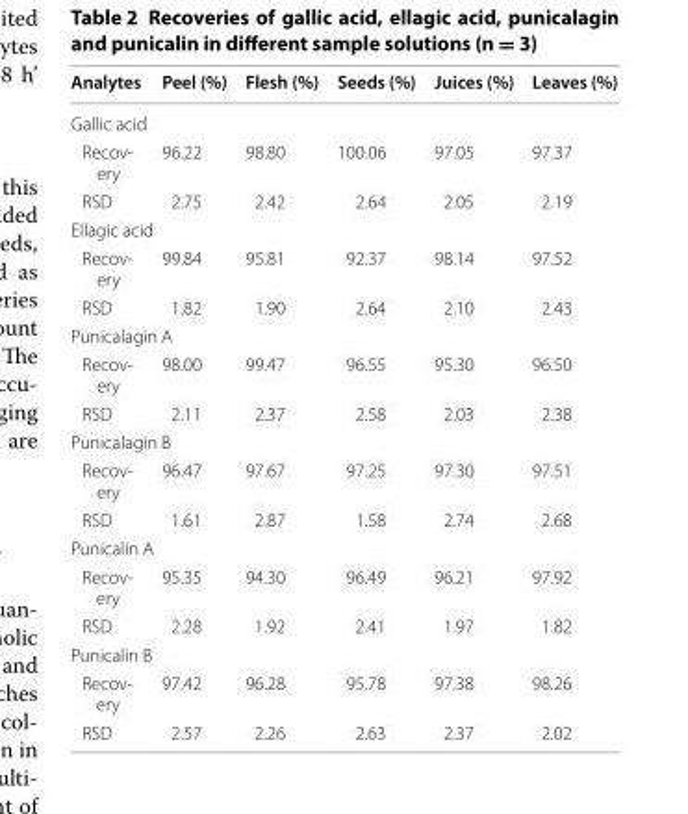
<table><thead><tr><td>Analytes</td><td>Peel (%)</td><td>Flesh (%)</td><td>Seeds (%)</td><td>Juices (%)</td><td>Leaves (%)</td></tr></thead><tbody><tr><td colspan="6">Gallic acid</td></tr><tr><td>Recov- ery</td><td>96.22</td><td>98.80</td><td>100.06</td><td>97.05</td><td>97.37</td></tr><tr><td>RSD</td><td>2.75</td><td>2.42</td><td>2.64</td><td>2.05</td><td>2.19</td></tr><tr><td colspan="6">Ellagic acid</td></tr><tr><td>Recov- ery</td><td>99.84</td><td>95.81</td><td>92.37</td><td>98.14</td><td>97.52</td></tr><tr><td>RSD</td><td>1.82</td><td>1.90</td><td>2.64</td><td>2.10</td><td>2.43</td></tr><tr><td colspan="6">Punicalagin A</td></tr><tr><td>Recov- ery</td><td>98.00</td><td>99.47</td><td>96.55</td><td>95.30</td><td>96.50</td></tr><tr><td>RSD</td><td>2.11</td><td>2.37</td><td>2.58</td><td>2.03</td><td>2.38</td></tr><tr><td colspan="6">Punicalagin B</td></tr><tr><td>Recov- ery</td><td>96.47</td><td>97.67</td><td>97.25</td><td>97.30</td><td>97.51</td></tr><tr><td>RSD</td><td>1.61</td><td>2.87</td><td>1.58</td><td>2.74</td><td>2.68</td></tr><tr><td colspan="6">Punicalin A</td></tr><tr><td>Recov- ery</td><td>95.35</td><td>94.30</td><td>96.49</td><td>96.21</td><td>97.92</td></tr><tr><td>RSD</td><td>2.28</td><td>1.92</td><td>2.41</td><td>1.97</td><td>1.82</td></tr><tr><td colspan="6">Punicalin B</td></tr><tr><td>Recov- ery</td><td>97.42</td><td>96.28</td><td>95.78</td><td>97.38</td><td>98.26</td></tr><tr><td>RSD</td><td>2.57</td><td>2.26</td><td>2.63</td><td>2.37</td><td>2.02</td></tr></tbody></table>